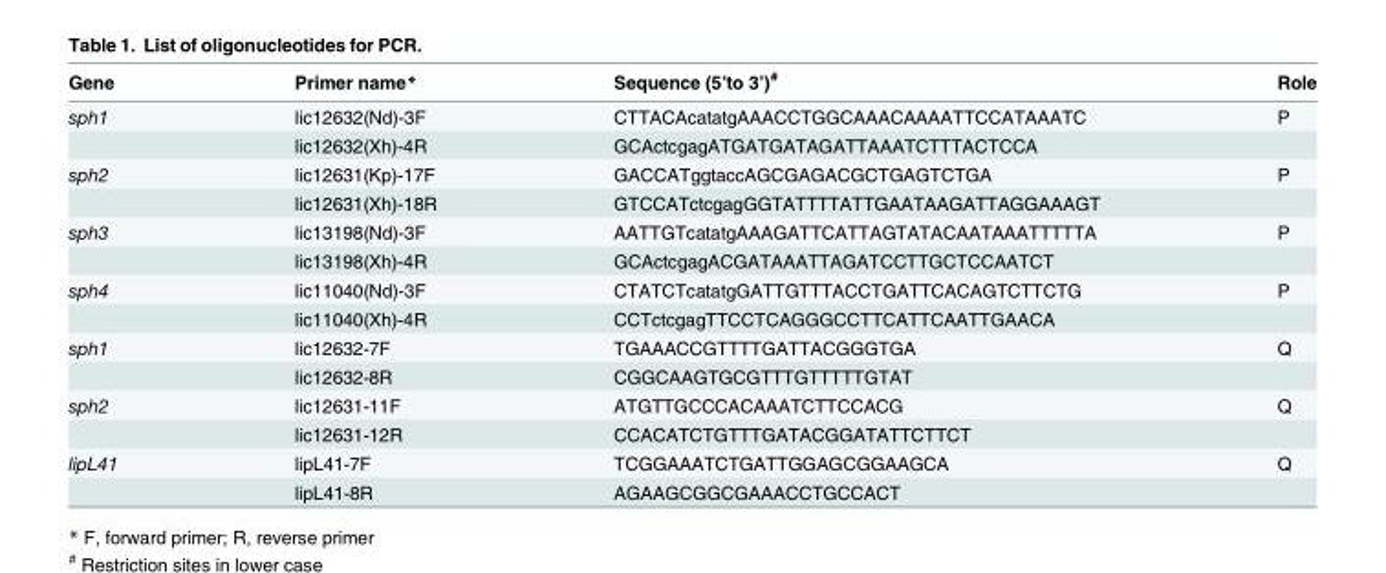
<table><thead><tr><td>Gene</td><td>Primer name*</td><td>Sequence (5’to 3’)<sup>#</sup></td><td>Role</td></tr></thead><tbody><tr><td rowspan="2">sph1</td><td>lic12632(Nd)-3F</td><td>CTTACAcatatgAAACCTGGCAAACAAAATTCCATAAATC</td><td>P</td></tr><tr><td>lic12632(Xh)-4R</td><td>GCActcgagATGATGATAGATTAAATCTTTACTCCA</td><td></td></tr><tr><td rowspan="2">sph2</td><td>lic12631(Kp)-17F</td><td>GACCATggtaccAGCGAGACGCTGAGTCTGA</td><td>P</td></tr><tr><td>lic12631(Xh)-18R</td><td>GTCCATctcgagGGTATTTTATTGAATAAGATTAGGAAAGT</td><td></td></tr><tr><td rowspan="2">sph3</td><td>lic13198(Nd)-3F</td><td>AATTGTcatatgAAAGATTCATTAGTATACAATAAATTTTTA</td><td>P</td></tr><tr><td>lic13198(Xh)-4R</td><td>GCActcgagACGATAAATTAGATCCTTGCTCCAATCT</td><td></td></tr><tr><td rowspan="2">sph4</td><td>lic11040(Nd)-3F</td><td>CTATCTcatatgGATTGTTTACCTGATTCACAGTCTTCTG</td><td>P</td></tr><tr><td>lic11040(Xh)-4R</td><td>CCTctcgagTTCCTCAGGGCCTTCATTCAATTGAACA</td><td></td></tr><tr><td rowspan="2">sph1</td><td>lic12632-7F</td><td>TGAAACCGTTTTGATTACGGGTGA</td><td>Q</td></tr><tr><td>lic12632-8R</td><td>CGGCAAGTGCGTTTGTTTTTGTAT</td><td></td></tr><tr><td rowspan="2">sph2</td><td>lic12631-11F</td><td>ATGTTGCCCACAAATCTTCCACG</td><td>Q</td></tr><tr><td>lic12631-12R</td><td>CCACATCTGTTTGATACGGATATTCTTCT</td><td></td></tr><tr><td rowspan="2">lipL41</td><td>lipL41-7F</td><td>TCGGAAATCTGATTGGAGCGGAAGCA</td><td>Q</td></tr><tr><td>lipL41-8R</td><td>AGAAGCGGCGAAACCTGCCACT</td><td></td></tr></tbody></table>